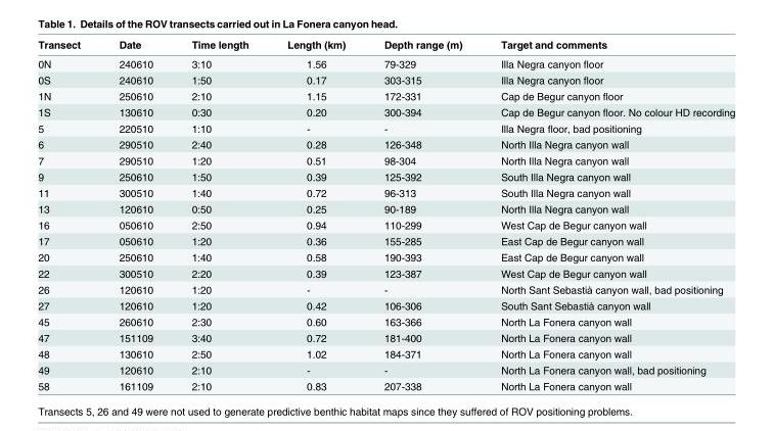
<table><thead><tr><td>Transect</td><td>Date</td><td>Time length</td><td>Length (km)</td><td>Depth range (m)</td><td>Target and comments</td></tr></thead><tbody><tr><td>0N</td><td>240610</td><td>3:10</td><td>1.56</td><td>79-329</td><td>Illa Negra canyon floor</td></tr><tr><td>0S</td><td>240610</td><td>1:50</td><td>0.17</td><td>303-315</td><td>Illa Negra canyon floor</td></tr><tr><td>1N</td><td>250610</td><td>2:10</td><td>1.15</td><td>172-331</td><td>Cap de Begur canyon floor</td></tr><tr><td>1S</td><td>130610</td><td>0:30</td><td>0.20</td><td>300-394</td><td>Cap de Begur canyon floor. No colour HD recording</td></tr><tr><td>5</td><td>220510</td><td>1:10</td><td>-</td><td>-</td><td>Illa Negra floor, bad positioning</td></tr><tr><td>6</td><td>290510</td><td>2:40</td><td>0.28</td><td>126-348</td><td>North Illa Negra canyon wall</td></tr><tr><td>7</td><td>290510</td><td>1:20</td><td>0.51</td><td>98-304</td><td>North Illa Negra canyon wall</td></tr><tr><td>9</td><td>250610</td><td>1:50</td><td>0.39</td><td>125-392</td><td>South Illa Negra canyon wall</td></tr><tr><td>11</td><td>300510</td><td>1:40</td><td>0.72</td><td>96-313</td><td>South Illa Negra canyon wall</td></tr><tr><td>13</td><td>120610</td><td>0:50</td><td>0.25</td><td>90-189</td><td>North Illa Negra canyon wall</td></tr><tr><td>16</td><td>050610</td><td>2:50</td><td>0.94</td><td>110-299</td><td>West Cap de Begur canyon wall</td></tr><tr><td>17</td><td>050610</td><td>1:20</td><td>0.36</td><td>155-285</td><td>East Cap de Begur canyon wall</td></tr><tr><td>20</td><td>250610</td><td>1:40</td><td>0.58</td><td>190-393</td><td>East Cap de Begur canyon wall</td></tr><tr><td>22</td><td>300510</td><td>2:20</td><td>0.39</td><td>123-387</td><td>West Cap de Begur canyon wall</td></tr><tr><td>26</td><td>120610</td><td>1:20</td><td>-</td><td>-</td><td>North Sant Sebastià canyon wall, bad positioning</td></tr><tr><td>27</td><td>120610</td><td>1:20</td><td>0.42</td><td>106-306</td><td>South Sant Sebastià canyon wall</td></tr><tr><td>45</td><td>260610</td><td>2:30</td><td>0.60</td><td>163-366</td><td>North La Fonera canyon wall</td></tr><tr><td>47</td><td>151109</td><td>3:40</td><td>0.72</td><td>181-400</td><td>North La Fonera canyon wall</td></tr><tr><td>48</td><td>130610</td><td>2:50</td><td>1.02</td><td>184-371</td><td>North La Fonera canyon wall</td></tr><tr><td>49</td><td>120610</td><td>2:10</td><td>-</td><td>-</td><td>North La Fonera canyon wall, bad positioning</td></tr><tr><td>58</td><td>161109</td><td>2:10</td><td>0.83</td><td>207-338</td><td>North La Fonera canyon wall</td></tr></tbody></table>